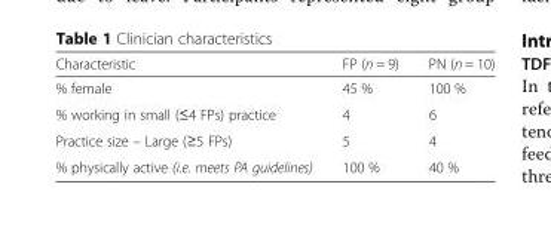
<table><thead><tr><td>Characteristic</td><td>FP (n = 9)</td><td>PN (n = 10)</td></tr></thead><tbody><tr><td>% female</td><td>45 %</td><td>100 %</td></tr><tr><td>% working in small (≤4 FPs) practice</td><td>4</td><td>6</td></tr><tr><td>Practice size – Large (≥5 FPs)</td><td>5</td><td>4</td></tr><tr><td>% physically active (i.e. meets PA guidelines)</td><td>100 %</td><td>40 %</td></tr></tbody></table>